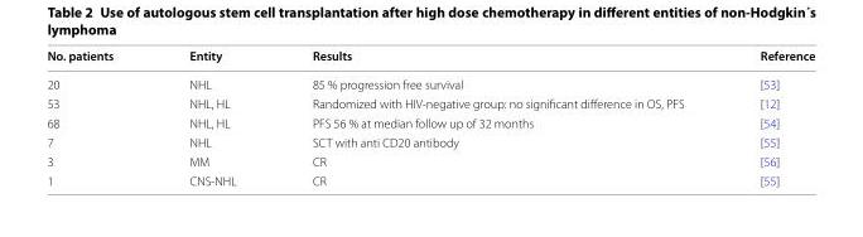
<table><thead><tr><td>No. patients</td><td>Entity</td><td>Results</td><td>Reference</td></tr></thead><tbody><tr><td>20</td><td>NHL</td><td>85 % progression free survival</td><td>[53]</td></tr><tr><td>53</td><td>NHL, HL</td><td>Randomized with HIV-negative group: no significant difference in OS, PFS</td><td>[12]</td></tr><tr><td>68</td><td>NHL, HL</td><td>PFS 56 % at median follow up of 32 months</td><td>[54]</td></tr><tr><td>7</td><td>NHL</td><td>SCT with anti CD20 antibody</td><td>[55]</td></tr><tr><td>3</td><td>MM</td><td>CR</td><td>[56]</td></tr><tr><td>1</td><td>CNS-NHL</td><td>CR</td><td>[55]</td></tr></tbody></table>